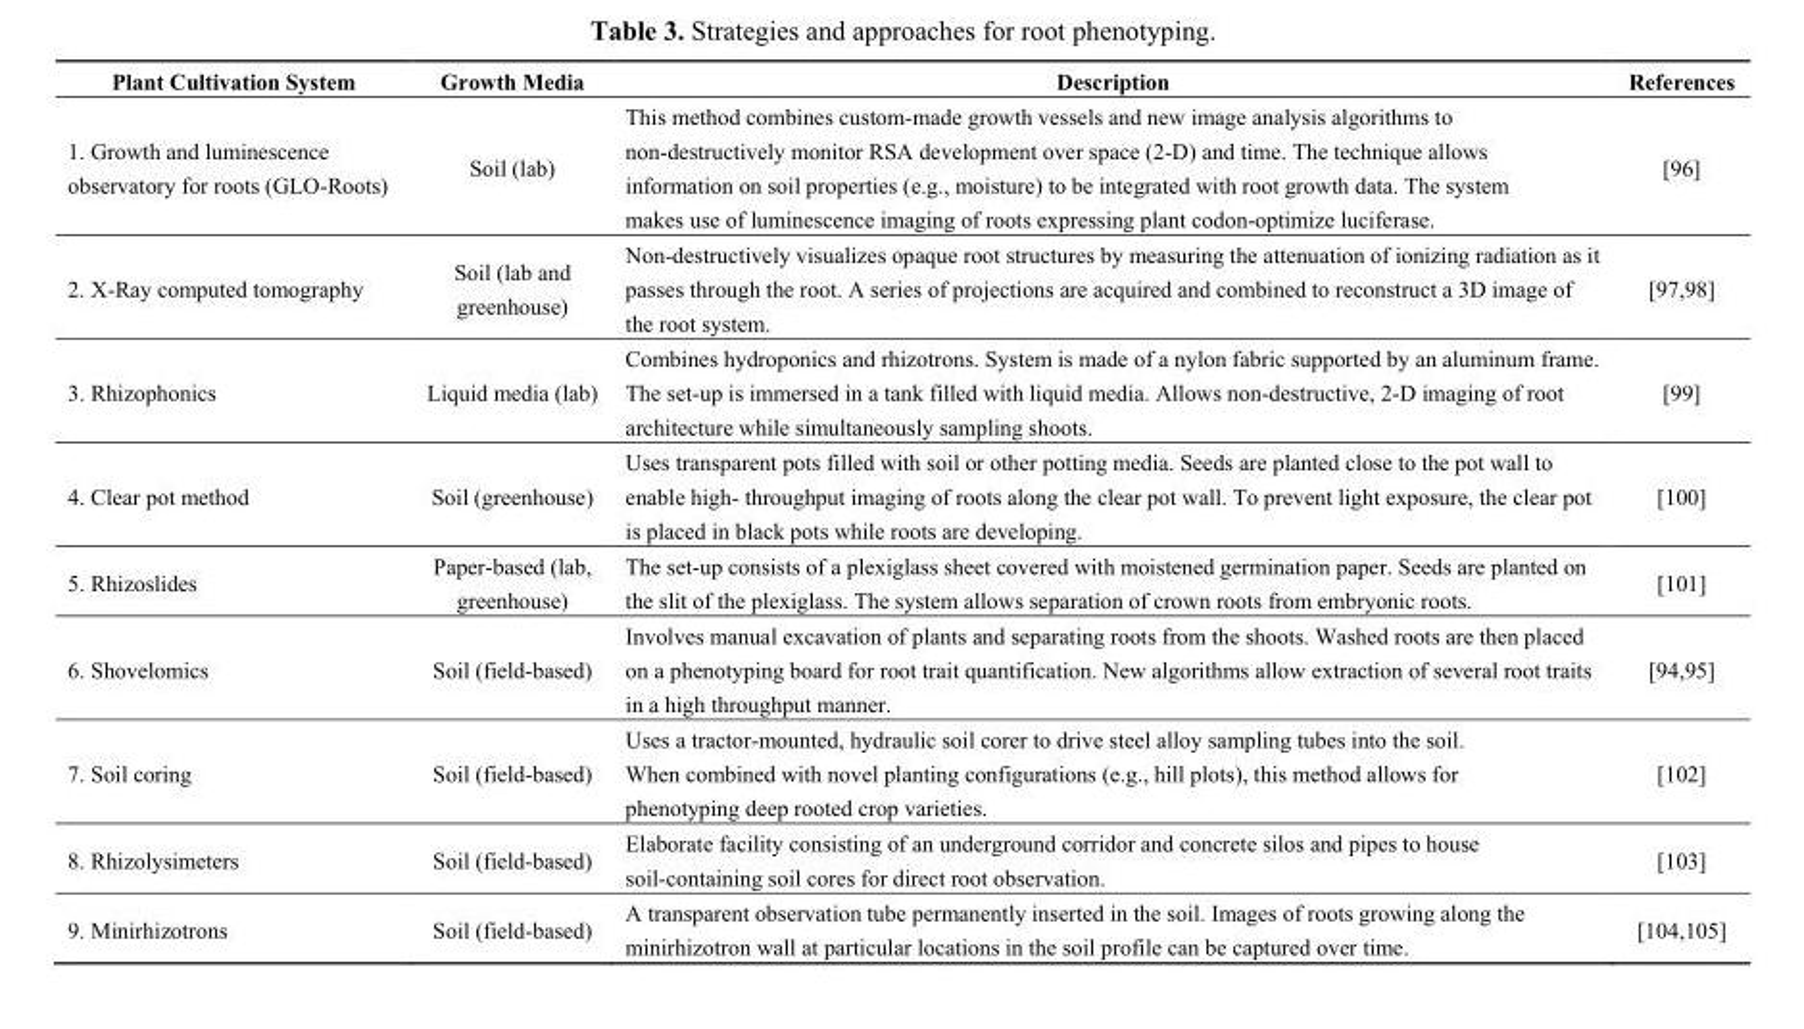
<table><thead><tr><td>Plant Cultivation System</td><td>Growth Media</td><td>Description</td><td>References</td></tr></thead><tbody><tr><td>1. Growth and luminescence observatory for roots (GLO-Roots)</td><td>Soil (lab)</td><td>This method combines custom-made growth vessels and new image analysis algorithms to non-destructively monitor RSA development over space (2-D) and time. The technique allows information on soil properties (e.g., moisture) to be integrated with root growth data. The system makes use of luminescence imaging of roots expressing plant codon-optimize luciferase.</td><td>[96]</td></tr><tr><td>2. X-Ray computed tomography</td><td>Soil (lab and greenhouse)</td><td>Non-destructively visualizes opaque root structures by measuring the attenuation of ionizing radiation as it passes through the root. A series of projections are acquired and combined to reconstruct a 3D image of the root system.</td><td>[97,98]</td></tr><tr><td>3. Rhizophonics</td><td>Liquid media (lab)</td><td>Combines hydroponics and rhizotrons. System is made of a nylon fabric supported by an aluminum frame. The set-up is immersed in a tank filled with liquid media. Allows non-destructive, 2-D imaging of root architecture while simultaneously sampling shoots.</td><td>[99]</td></tr><tr><td>4. Clear pot method</td><td>Soil (greenhouse)</td><td>Uses transparent pots filled with soil or other potting media. Seeds are planted close to the pot wall to enable high- throughput imaging of roots along the clear pot wall. To prevent light exposure, the clear pot is placed in black pots while roots are developing.</td><td>[100]</td></tr><tr><td>5. Rhizoslides</td><td>Paper-based (lab, greenhouse)</td><td>The set-up consists of a plexiglass sheet covered with moistened germination paper. Seeds are planted on the slit of the plexiglass. The system allows separation of crown roots from embryonic roots.</td><td>[101]</td></tr><tr><td>6. Shovelomics</td><td>Soil (field-based)</td><td>Involves manual excavation of plants and separating roots from the shoots. Washed roots are then placed on a phenotyping board for root trait quantification. New algorithms allow extraction of several root traits in a high throughput manner.</td><td>[94,95]</td></tr><tr><td>7. Soil coring</td><td>Soil (field-based)</td><td>Uses a tractor-mounted, hydraulic soil corer to drive steel alloy sampling tubes into the soil. When combined with novel planting configurations (e.g., hill plots), this method allows for phenotyping deep rooted crop varieties.</td><td>[102]</td></tr><tr><td>8. Rhizolysimeters</td><td>Soil (field-based)</td><td>Elaborate facility consisting of an underground corridor and concrete silos and pipes to house soil-containing soil cores for direct root observation.</td><td>[103]</td></tr><tr><td>9. Minirhizotrons</td><td>Soil (field-based)</td><td>A transparent observation tube permanently inserted in the soil. Images of roots growing along the minirhizotron wall at particular locations in the soil profile can be captured over time.</td><td>[104,105]</td></tr></tbody></table>